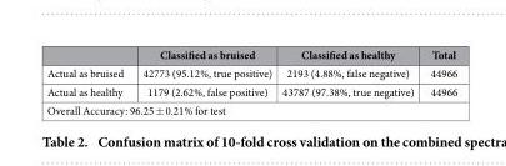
<table><thead><tr><td></td><td>Classified as bruised</td><td>Classified as healthy</td><td>Total</td></tr></thead><tbody><tr><td>Actual as bruised</td><td>42773 (95.12%, true positive)</td><td>2193 (4.88%, false negative)</td><td>44966</td></tr><tr><td>Actual as healthy</td><td>1179 (2.62%, false positive)</td><td>43787 (97.38%, true negative)</td><td>44966</td></tr><tr><td colspan="4">Overall Accuracy: 96.25 ± 0.21% for test</td></tr></tbody></table>